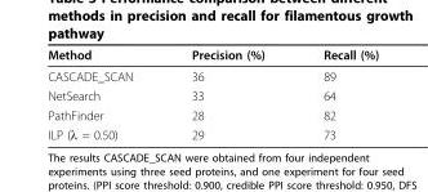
<table><thead><tr><td>Method</td><td>Precision (%)</td><td>Recall (%)</td></tr></thead><tbody><tr><td>CASCADE_SCAN</td><td>36</td><td>89</td></tr><tr><td>NetSearch</td><td>33</td><td>64</td></tr><tr><td>PathFinder</td><td>28</td><td>82</td></tr><tr><td>ILP (λ = 0.50)</td><td>29</td><td>73</td></tr></tbody></table>